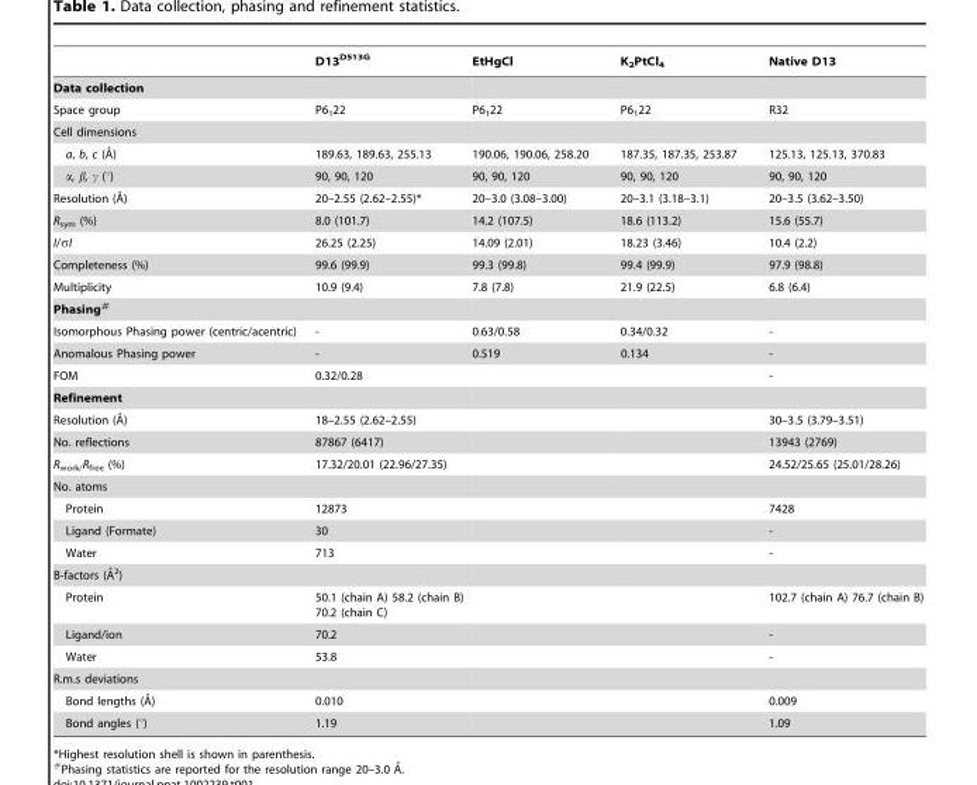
<table><thead><tr><td></td><td>D13<sup>D513G</sup></td><td>EtHgCl</td><td>K<sub>2</sub>PtCl<sub>4</sub></td><td>Native D13</td></tr></thead><tbody><tr><td colspan="5">Data collection</td></tr><tr><td>Space group</td><td>P6<sub>1</sub>22</td><td>P6<sub>1</sub>22</td><td>P6<sub>1</sub>22</td><td>R32</td></tr><tr><td colspan="5">Cell dimensions</td></tr><tr><td>a, b, c (A˚)</td><td>189.63, 189.63, 255.13</td><td>190.06, 190.06, 258.20</td><td>187.35, 187.35, 253.87</td><td>125.13, 125.13, 370.83</td></tr><tr><td>α, β, γ (°)</td><td>90, 90, 120</td><td>90, 90, 120</td><td>90, 90, 120</td><td>90, 90, 120</td></tr><tr><td>Resolution (A˚)</td><td>20–2.55 (2.62–2.55)*</td><td>20–3.0 (3.08–3.00)</td><td>20–3.1 (3.18–3.1)</td><td>20–3.5 (3.62–3.50)</td></tr><tr><td>R<sub>sym</sub> (%)</td><td>8.0 (101.7)</td><td>14.2 (107.5)</td><td>18.6 (113.2)</td><td>15.6 (55.7)</td></tr><tr><td>I/σI</td><td>26.25 (2.25)</td><td>14.09 (2.01)</td><td>18.23 (3.46)</td><td>10.4 (2.2)</td></tr><tr><td>Completeness (%)</td><td>99.6 (99.9)</td><td>99.3 (99.8)</td><td>99.4 (99.9)</td><td>97.9 (98.8)</td></tr><tr><td>Multiplicity</td><td>10.9 (9.4)</td><td>7.8 (7.8)</td><td>21.9 (22.5)</td><td>6.8 (6.4)</td></tr><tr><td colspan="5">Phasing#</td></tr><tr><td>Isomorphous Phasing power (centric/acentric)</td><td>-</td><td>0.63/0.58</td><td>0.34/0.32</td><td>-</td></tr><tr><td>Anomalous Phasing power</td><td>-</td><td>0.519</td><td>0.134</td><td>-</td></tr><tr><td>FOM</td><td>0.32/0.28</td><td></td><td></td><td>-</td></tr><tr><td colspan="5">Refinement</td></tr><tr><td>Resolution (A˚)</td><td>18–2.55 (2.62–2.55)</td><td></td><td></td><td>30–3.5 (3.79–3.51)</td></tr><tr><td>No. reflections</td><td>87867 (6417)</td><td></td><td></td><td>13943 (2769)</td></tr><tr><td>R<sub>work/</sub>R<sub>free</sub> (%)</td><td>17.32/20.01 (22.96/27.35)</td><td></td><td></td><td>24.52/25.65 (25.01/28.26)</td></tr><tr><td colspan="5">No. atoms</td></tr><tr><td>Protein</td><td>12873</td><td></td><td></td><td>7428</td></tr><tr><td>Ligand (Formate)</td><td>30</td><td></td><td></td><td>-</td></tr><tr><td>Water</td><td>713</td><td></td><td></td><td>-</td></tr><tr><td colspan="5">B-factors (A˚ 2)</td></tr><tr><td>Protein</td><td>50.1 (chain A) 58.2 (chain B) 70.2 (chain C)</td><td></td><td></td><td>102.7 (chain A) 76.7 (chain B)</td></tr><tr><td>Ligand/ion</td><td>70.2</td><td></td><td></td><td>-</td></tr><tr><td>Water</td><td>53.8</td><td></td><td></td><td>-</td></tr><tr><td colspan="5">R.m.s deviations</td></tr><tr><td>Bond lengths (A˚)</td><td>0.010</td><td></td><td></td><td>0.009</td></tr><tr><td>Bond angles (°)</td><td>1.19</td><td></td><td></td><td>1.09</td></tr></tbody></table>